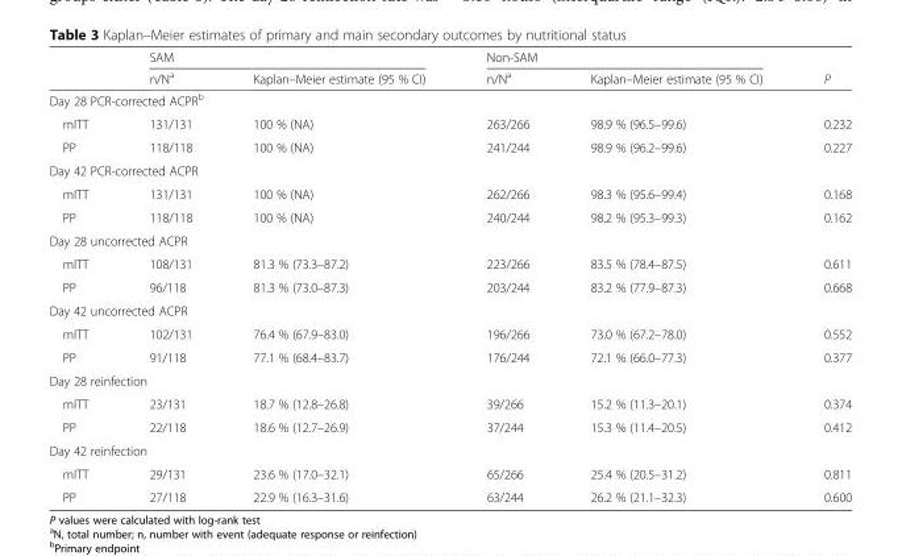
<table><thead><tr><td rowspan="2"></td><td colspan="2">SAM</td><td colspan="2">Non-SAM</td><td rowspan="2">P</td></tr><tr><td>n/N<sup>a</sup></td><td>Kaplan–Meier estimate (95 % CI)</td><td>n/N<sup>a</sup></td><td>Kaplan–Meier estimate (95 % CI)</td></tr></thead><tbody><tr><td colspan="6">Day 28 PCR-corrected ACPR<sup>b</sup></td></tr><tr><td>mITT</td><td>131/131</td><td>100 % (NA)</td><td>263/266</td><td>98.9 % (96.5–99.6)</td><td>0.232</td></tr><tr><td>PP</td><td>118/118</td><td>100 % (NA)</td><td>241/244</td><td>98.9 % (96.2–99.6)</td><td>0.227</td></tr><tr><td colspan="6">Day 42 PCR-corrected ACPR</td></tr><tr><td>mITT</td><td>131/131</td><td>100 % (NA)</td><td>262/266</td><td>98.3 % (95.6–99.4)</td><td>0.168</td></tr><tr><td>PP</td><td>118/118</td><td>100 % (NA)</td><td>240/244</td><td>98.2 % (95.3–99.3)</td><td>0.162</td></tr><tr><td colspan="6">Day 28 uncorrected ACPR</td></tr><tr><td>mITT</td><td>108/131</td><td>81.3 % (73.3–87.2)</td><td>223/266</td><td>83.5 % (78.4–87.5)</td><td>0.611</td></tr><tr><td>PP</td><td>96/118</td><td>81.3 % (73.0–87.3)</td><td>203/244</td><td>83.2 % (77.9–87.3)</td><td>0.668</td></tr><tr><td colspan="6">Day 42 uncorrected ACPR</td></tr><tr><td>mITT</td><td>102/131</td><td>76.4 % (67.9–83.0)</td><td>196/266</td><td>73.0 % (67.2–78.0)</td><td>0.552</td></tr><tr><td>PP</td><td>91/118</td><td>77.1 % (68.4–83.7)</td><td>176/244</td><td>72.1 % (66.0–77.3)</td><td>0.377</td></tr><tr><td colspan="6">Day 28 reinfection</td></tr><tr><td>mITT</td><td>23/131</td><td>18.7 % (12.8–26.8)</td><td>39/266</td><td>15.2 % (11.3–20.1)</td><td>0.374</td></tr><tr><td>PP</td><td>22/118</td><td>18.6 % (12.7–26.9)</td><td>37/244</td><td>15.3 % (11.4–20.5)</td><td>0.412</td></tr><tr><td colspan="6">Day 42 reinfection</td></tr><tr><td>mITT</td><td>29/131</td><td>23.6 % (17.0–32.1)</td><td>65/266</td><td>25.4 % (20.5–31.2)</td><td>0.811</td></tr><tr><td>PP</td><td>27/118</td><td>22.9 % (16.3–31.6)</td><td>63/244</td><td>26.2 % (21.1–32.3)</td><td>0.600</td></tr></tbody></table>